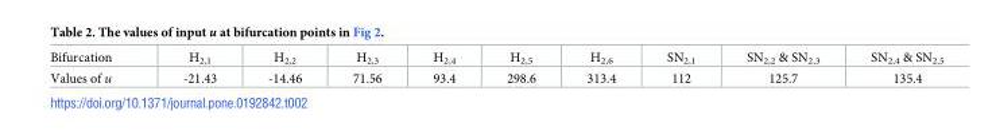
<table><tbody><tr><td>Bifurcation</td><td>H<sub>2,1</sub></td><td>H<sub>2,2</sub></td><td>H<sub>2,3</sub></td><td>H<sub>2,4</sub></td><td>H<sub>2,5</sub></td><td>H<sub>2,6</sub></td><td>SN<sub>2,1</sub></td><td>SN<sub>2,2</sub> &amp; SN<sub>2,3</sub></td><td>SN<sub>2,4</sub> &amp; SN<sub>2,5</sub></td></tr><tr><td>Values of u</td><td>-21.43</td><td>-14.46</td><td>71.56</td><td>93.4</td><td>298.6</td><td>313.4</td><td>112</td><td>125.7</td><td>135.4</td></tr></tbody></table>